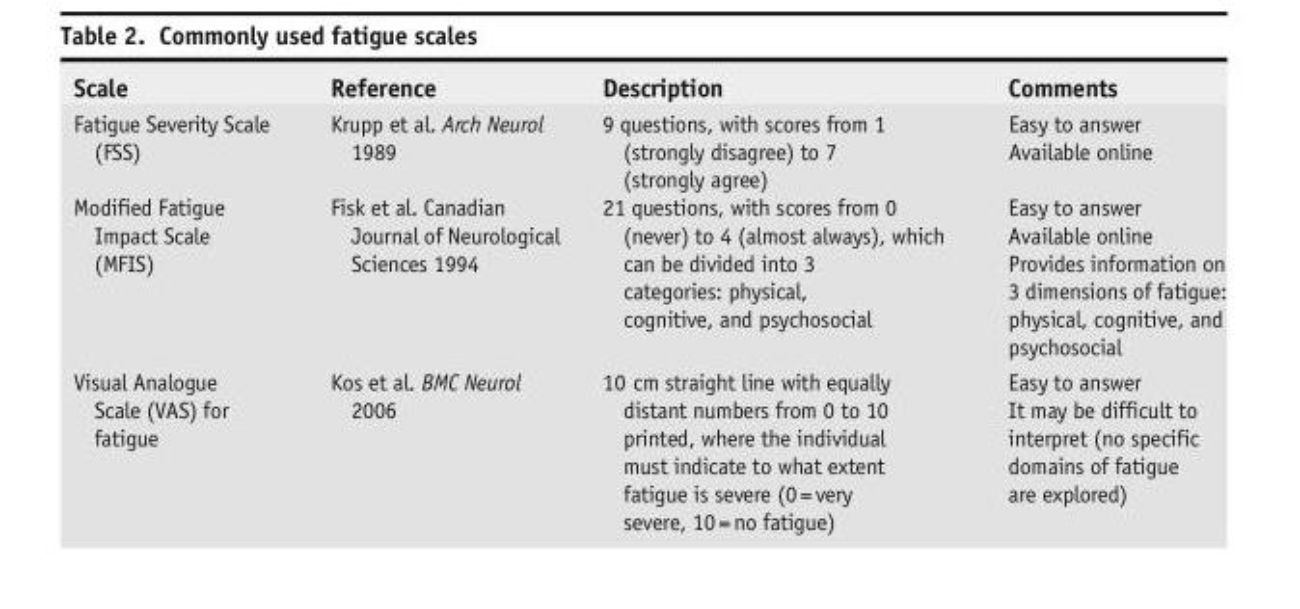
<table><thead><tr><td>Scale</td><td>Reference</td><td>Description</td><td>Comments</td></tr></thead><tbody><tr><td>Fatigue Severity Scale (FSS)</td><td>Krupp et al. Arch Neurol 1989</td><td>9 questions, with scores from 1 (strongly disagree) to 7 (strongly agree)</td><td>Easy to answer Available online</td></tr><tr><td>Modified Fatigue Impact Scale (MFIS)</td><td>Fisk et al. Canadian Journal of Neurological Sciences 1994</td><td>21 questions, with scores from 0 (never) to 4 (almost always), which can be divided into 3 categories: physical, cognitive, and psychosocial</td><td>Easy to answer Available online Provides information on 3 dimensions of fatigue: physical, cognitive, and psychosocial</td></tr><tr><td>Visual Analogue Scale (VAS) for fatigue</td><td>Kos et al. BMC Neurol 2006</td><td>10 cm straight line with equally distant numbers from 0 to 10 printed, where the individual must indicate to what extent fatigue is severe (0=very severe, 10=no fatigue)</td><td>Easy to answer It may be difficult to interpret (no specific domains of fatigue are explored)</td></tr></tbody></table>